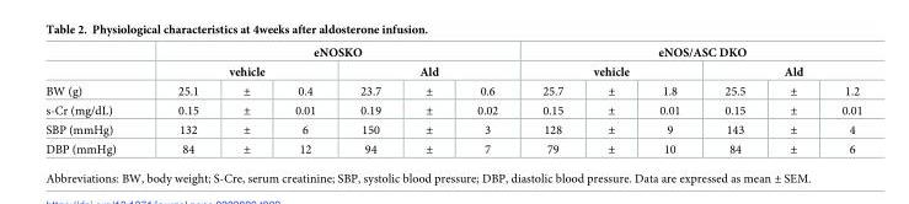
<table><thead><tr><td rowspan="3">BW (g)</td><td colspan="6">eNOSKO</td><td colspan="6">eNOS/ASC DKO</td></tr><tr><td colspan="3">vehicle</td><td colspan="3">Ald</td><td colspan="3">vehicle</td><td colspan="3">Ald</td></tr><tr><td>25.1</td><td>±</td><td>0.4</td><td>23.7</td><td>±</td><td>0.6</td><td>25.7</td><td>±</td><td>1.8</td><td>25.5</td><td>±</td><td>1.2</td></tr></thead><tbody><tr><td>s-Cr (mg/dL)</td><td>0.15</td><td>±</td><td>0.01</td><td>0.19</td><td>±</td><td>0.02</td><td>0.15</td><td>±</td><td>0.01</td><td>0.15</td><td>±</td><td>0.01</td></tr><tr><td>SBP (mmHg)</td><td>132</td><td>±</td><td>6</td><td>150</td><td>±</td><td>3</td><td>128</td><td>±</td><td>9</td><td>143</td><td>±</td><td>4</td></tr><tr><td>DBP (mmHg)</td><td>84</td><td>±</td><td>12</td><td>94</td><td>±</td><td>7</td><td>79</td><td>±</td><td>10</td><td>84</td><td>±</td><td>6</td></tr></tbody></table>